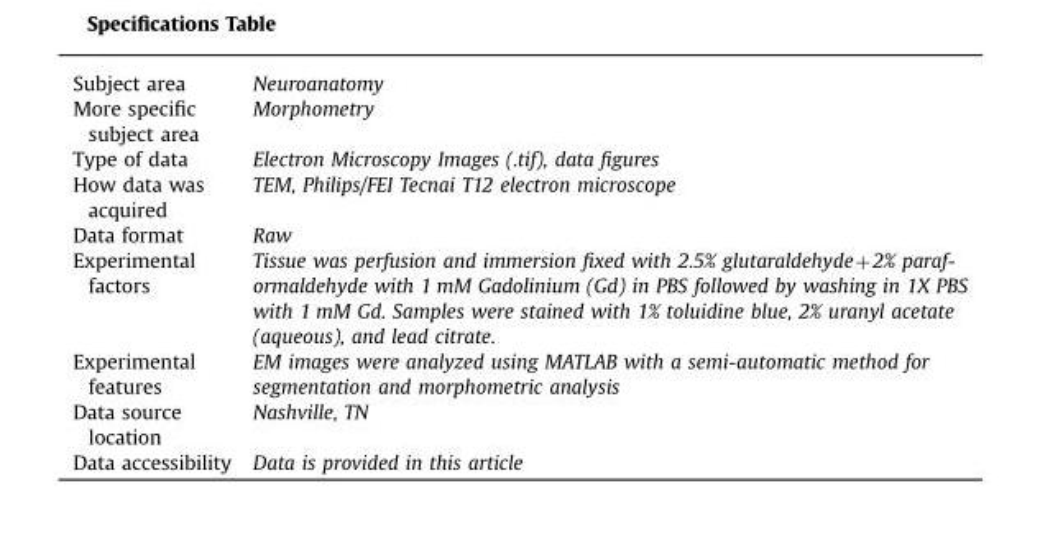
<table><tbody><tr><td>Subject area</td><td>Neuroanatomy</td></tr><tr><td>More specific subject area</td><td>Morphometry</td></tr><tr><td>Type of data</td><td>Electron Microscopy Images (.tif), data figures</td></tr><tr><td>How data was acquired</td><td>TEM, Philips/FEI Tecnai T12 electron microscope</td></tr><tr><td>Data format</td><td>Raw</td></tr><tr><td>Experimental factors</td><td>Tissue was perfusion and immersion fixed with 2.5% glutaraldehydeþ2% paraf- ormaldehyde with 1 mM Gadolinium (Gd) in PBS followed by washing in 1X PBS with 1 mM Gd. Samples were stained with 1% toluidine blue, 2% uranyl acetate (aqueous), and lead citrate.</td></tr><tr><td>Experimental features</td><td>EM images were analyzed using MATLAB with a semi-automatic method for segmentation and morphometric analysis</td></tr><tr><td>Data source location</td><td>Nashville, TN</td></tr><tr><td>Data accessibility</td><td>Data is provided in this article</td></tr></tbody></table>